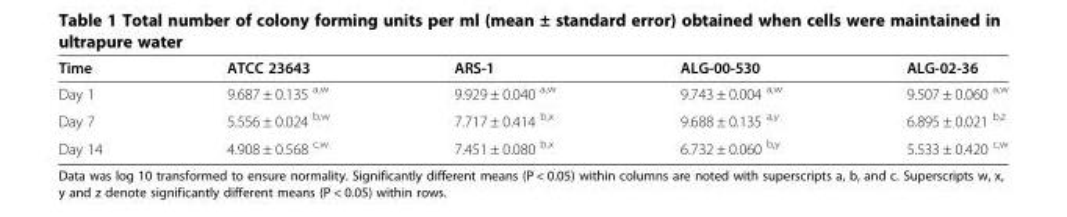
<table><thead><tr><td>Time</td><td>ATCC 23643</td><td>ARS-1</td><td>ALG-00-530</td><td>ALG-02-36</td></tr></thead><tbody><tr><td>Day 1</td><td>9.687 ± 0.135 <sup>a,w</sup></td><td>9.929 ± 0.040 <sup>a,w</sup></td><td>9.743 ± 0.004 <sup>a,w</sup></td><td>9.507 ± 0.060 <sup>a,w</sup></td></tr><tr><td>Day 7</td><td>5.556 ± 0.024 <sup>b,w</sup></td><td>7.717 ± 0.414 <sup>b,x</sup></td><td>9.688 ± 0.135 <sup>a,y</sup></td><td>6.895 ± 0.021 <sup>b,z</sup></td></tr><tr><td>Day 14</td><td>4.908 ± 0.568 <sup>c,w</sup></td><td>7.451 ± 0.080 <sup>b,x</sup></td><td>6.732 ± 0.060 <sup>b,y</sup></td><td>5.533 ± 0.420 <sup>c,w</sup></td></tr></tbody></table>